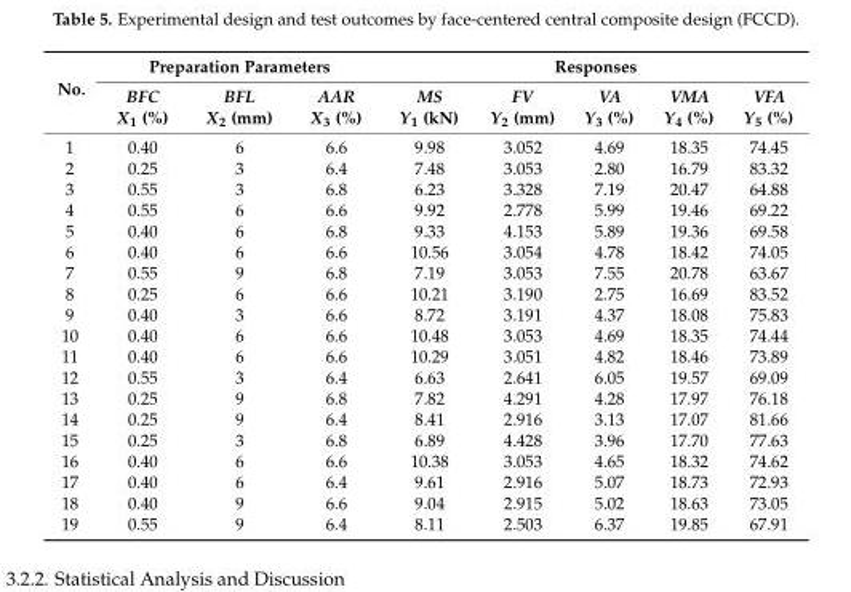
<table><thead><tr><td rowspan="2">No.</td><td colspan="3">Preparation Parameters</td><td colspan="5">Responses</td></tr><tr><td>BFC X<sub>1</sub> (%)</td><td>BFL X<sub>2</sub> (mm)</td><td>AAR X<sub>3</sub> (%)</td><td>MS Y<sub>1</sub> (kN)</td><td>FV Y<sub>2</sub> (mm)</td><td>VA Y<sub>3</sub> (%)</td><td>VMA Y<sub>4</sub> (%)</td><td>VFA Y<sub>5</sub> (%)</td></tr></thead><tbody><tr><td>1</td><td>0.40</td><td>6</td><td>6.6</td><td>9.98</td><td>3.052</td><td>4.69</td><td>18.35</td><td>74.45</td></tr><tr><td>2</td><td>0.25</td><td>3</td><td>6.4</td><td>7.48</td><td>3.053</td><td>2.80</td><td>16.79</td><td>83.32</td></tr><tr><td>3</td><td>0.55</td><td>3</td><td>6.8</td><td>6.23</td><td>3.328</td><td>7.19</td><td>20.47</td><td>64.88</td></tr><tr><td>4</td><td>0.55</td><td>6</td><td>6.6</td><td>9.92</td><td>2.778</td><td>5.99</td><td>19.46</td><td>69.22</td></tr><tr><td>5</td><td>0.40</td><td>6</td><td>6.8</td><td>9.33</td><td>4.153</td><td>5.89</td><td>19.36</td><td>69.58</td></tr><tr><td>6</td><td>0.40</td><td>6</td><td>6.6</td><td>10.56</td><td>3.054</td><td>4.78</td><td>18.42</td><td>74.05</td></tr><tr><td>7</td><td>0.55</td><td>9</td><td>6.8</td><td>7.19</td><td>3.053</td><td>7.55</td><td>20.78</td><td>63.67</td></tr><tr><td>8</td><td>0.25</td><td>6</td><td>6.6</td><td>10.21</td><td>3.190</td><td>2.75</td><td>16.69</td><td>83.52</td></tr><tr><td>9</td><td>0.40</td><td>3</td><td>6.6</td><td>8.72</td><td>3.191</td><td>4.37</td><td>18.08</td><td>75.83</td></tr><tr><td>10</td><td>0.40</td><td>6</td><td>6.6</td><td>10.48</td><td>3.053</td><td>4.69</td><td>18.35</td><td>74.44</td></tr><tr><td>11</td><td>0.40</td><td>6</td><td>6.6</td><td>10.29</td><td>3.051</td><td>4.82</td><td>18.46</td><td>73.89</td></tr><tr><td>12</td><td>0.55</td><td>3</td><td>6.4</td><td>6.63</td><td>2.641</td><td>6.05</td><td>19.57</td><td>69.09</td></tr><tr><td>13</td><td>0.25</td><td>9</td><td>6.8</td><td>7.82</td><td>4.291</td><td>4.28</td><td>17.97</td><td>76.18</td></tr><tr><td>14</td><td>0.25</td><td>9</td><td>6.4</td><td>8.41</td><td>2.916</td><td>3.13</td><td>17.07</td><td>81.66</td></tr><tr><td>15</td><td>0.25</td><td>3</td><td>6.8</td><td>6.89</td><td>4.428</td><td>3.96</td><td>17.70</td><td>77.63</td></tr><tr><td>16</td><td>0.40</td><td>6</td><td>6.6</td><td>10.38</td><td>3.053</td><td>4.65</td><td>18.32</td><td>74.62</td></tr><tr><td>17</td><td>0.40</td><td>6</td><td>6.4</td><td>9.61</td><td>2.916</td><td>5.07</td><td>18.73</td><td>72.93</td></tr><tr><td>18</td><td>0.40</td><td>9</td><td>6.6</td><td>9.04</td><td>2.915</td><td>5.02</td><td>18.63</td><td>73.05</td></tr><tr><td>19</td><td>0.55</td><td>9</td><td>6.4</td><td>8.11</td><td>2.503</td><td>6.37</td><td>19.85</td><td>67.91</td></tr></tbody></table>